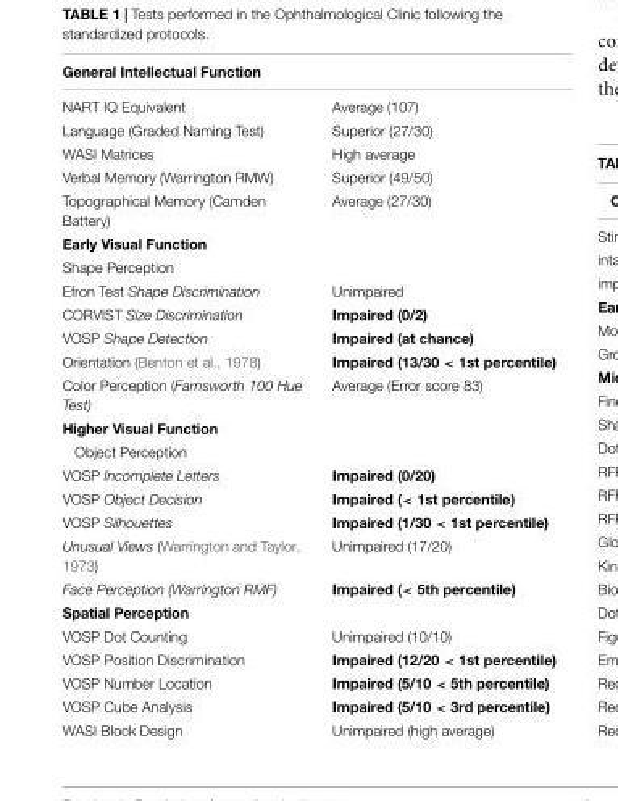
<table><thead><tr><td colspan="2">General Intellectual Function</td></tr><tr><td>NART IQ Equivalent</td><td>Average (107)</td></tr></thead><tbody><tr><td>Language (Graded Naming Test)</td><td>Superior (27/30)</td></tr><tr><td>WASI Matrices</td><td>High average</td></tr><tr><td>Verbal Memory (Warrington RMW)</td><td>Superior (49/50)</td></tr><tr><td>Topographical Memory (Camden Battery)</td><td>Average (27/30)</td></tr><tr><td colspan="2">Early Visual Function</td></tr><tr><td colspan="2">Shape Perception</td></tr><tr><td>Efron Test Shape Discrimination</td><td>Unimpaired</td></tr><tr><td>CORVIST Size Discrimination</td><td>Impaired (0/2)</td></tr><tr><td>VOSP Shape Detection</td><td>Impaired (at chance)</td></tr><tr><td>Orientation (Benton et al., 1978)</td><td>Impaired (13/30 &lt; 1st percentile)</td></tr><tr><td>Color Perception (Farnsworth 100 Hue Test)</td><td>Average (Error score 83)</td></tr><tr><td colspan="2">Higher Visual Function</td></tr><tr><td colspan="2">Object Perception</td></tr><tr><td>VOSP Incomplete Letters</td><td>Impaired (0/20)</td></tr><tr><td>VOSP Object Decision</td><td>Impaired (&lt; 1st percentile)</td></tr><tr><td>VOSP Silhouettes</td><td>Impaired (1/30 &lt; 1st percentile)</td></tr><tr><td>Unusual Views (Warrington and Taylor, 1973)</td><td>Unimpaired (17/20)</td></tr><tr><td>Face Perception (Warrington RMF)</td><td>Impaired (&lt; 5th percentile)</td></tr><tr><td colspan="2">Spatial Perception</td></tr><tr><td>VOSP Dot Counting</td><td>Unimpaired (10/10)</td></tr><tr><td>VOSP Position Discrimination</td><td>Impaired (12/20 &lt; 1st percentile)</td></tr><tr><td>VOSP Number Location</td><td>Impaired (5/10 &lt; 5th percentile)</td></tr><tr><td>VOSP Cube Analysis</td><td>Impaired (5/10 &lt; 3rd percentile)</td></tr><tr><td>WASI Block Design</td><td>Unimpaired (high average)</td></tr></tbody></table>